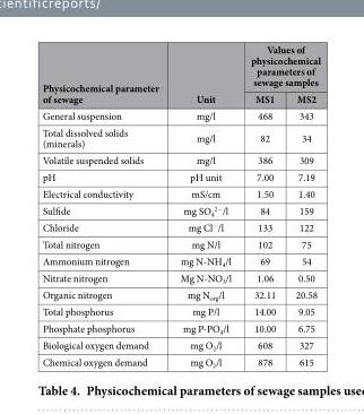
<table><thead><tr><td rowspan="2">Physicochemical parameter of sewage</td><td rowspan="2">Unit</td><td colspan="2">Values of physicochemical parameters of sewage samples</td></tr><tr><td>MS1</td><td>MS2</td></tr></thead><tbody><tr><td>General suspension</td><td>mg/l</td><td>468</td><td>343</td></tr><tr><td>Total dissolved solids (minerals)</td><td>mg/l</td><td>82</td><td>34</td></tr><tr><td>Volatile suspended solids</td><td>mg/l</td><td>386</td><td>309</td></tr><tr><td>pH</td><td>pH unit</td><td>7.00</td><td>7.19</td></tr><tr><td>Electrical conductivity</td><td>mS/cm</td><td>1.50</td><td>1.40</td></tr><tr><td>Sulfide</td><td>mg SO<sub>4</sub> <sup>2−</sup>/l</td><td>84</td><td>159</td></tr><tr><td>Chloride</td><td>mg Cl<sup>−</sup>/l</td><td>133</td><td>122</td></tr><tr><td>Total nitrogen</td><td>mg N/l</td><td>102</td><td>75</td></tr><tr><td>Ammonium nitrogen</td><td>mg N-NH<sub>4</sub>/l</td><td>69</td><td>54</td></tr><tr><td>Nitrate nitrogen</td><td>Mg N-NO<sub>3</sub>/l</td><td>1.06</td><td>0.50</td></tr><tr><td>Organic nitrogen</td><td>mg N<sub>org</sub>/l</td><td>32.11</td><td>20.58</td></tr><tr><td>Total phosphorus</td><td>mg P/l</td><td>14.00</td><td>9.05</td></tr><tr><td>Phosphate phosphorus</td><td>mg P-PO<sub>4</sub>/l</td><td>10.00</td><td>6.75</td></tr><tr><td>Biological oxygen demand</td><td>mg O<sub>2</sub>/l</td><td>608</td><td>327</td></tr><tr><td>Chemical oxygen demand</td><td>mg O<sub>2</sub>/l</td><td>878</td><td>615</td></tr></tbody></table>